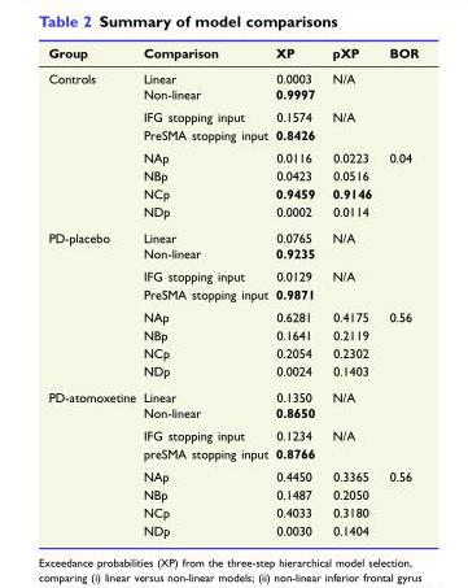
<table><thead><tr><td>Group</td><td>Comparison</td><td>XP</td><td>pXP</td><td>BOR</td></tr></thead><tbody><tr><td rowspan="8">Controls</td><td>Linear</td><td>0.0003</td><td rowspan="2">N/A</td><td rowspan="2"></td></tr><tr><td>Non-linear</td><td>0.9997</td></tr><tr><td>IFG stopping input</td><td>0.1574</td><td rowspan="2">N/A</td><td rowspan="2"></td></tr><tr><td>PreSMA stopping input</td><td>0.8426</td></tr><tr><td>NAp</td><td>0.0116</td><td>0.0223</td><td rowspan="4">0.04</td></tr><tr><td>NBp</td><td>0.0423</td><td>0.0516</td></tr><tr><td>NCp</td><td>0.9459</td><td>0.9146</td></tr><tr><td>NDp</td><td>0.0002</td><td>0.0114</td></tr><tr><td rowspan="8">PD-placebo</td><td>Linear</td><td>0.0765</td><td rowspan="2">N/A</td><td rowspan="2"></td></tr><tr><td>Non-linear</td><td>0.9235</td></tr><tr><td>IFG stopping input</td><td>0.0129</td><td rowspan="2">N/A</td><td rowspan="2"></td></tr><tr><td>PreSMA stopping input</td><td>0.9871</td></tr><tr><td>NAp</td><td>0.6281</td><td>0.4175</td><td rowspan="4">0.56</td></tr><tr><td>NBp</td><td>0.1641</td><td>0.2119</td></tr><tr><td>NCp</td><td>0.2054</td><td>0.2302</td></tr><tr><td>NDp</td><td>0.0024</td><td>0.1403</td></tr><tr><td rowspan="8">PD-atomoxetine</td><td>Linear</td><td>0.1350</td><td rowspan="2">N/A</td><td rowspan="2"></td></tr><tr><td>Non-linear</td><td>0.8650</td></tr><tr><td>IFG stopping input</td><td>0.1234</td><td rowspan="2">N/A</td><td rowspan="2"></td></tr><tr><td>preSMA stopping input</td><td>0.8766</td></tr><tr><td>NAp</td><td>0.4450</td><td>0.3365</td><td rowspan="4">0.56</td></tr><tr><td>NBp</td><td>0.1487</td><td>0.2050</td></tr><tr><td>NCp</td><td>0.4033</td><td>0.3180</td></tr><tr><td>NDp</td><td>0.0030</td><td>0.1404</td></tr></tbody></table>